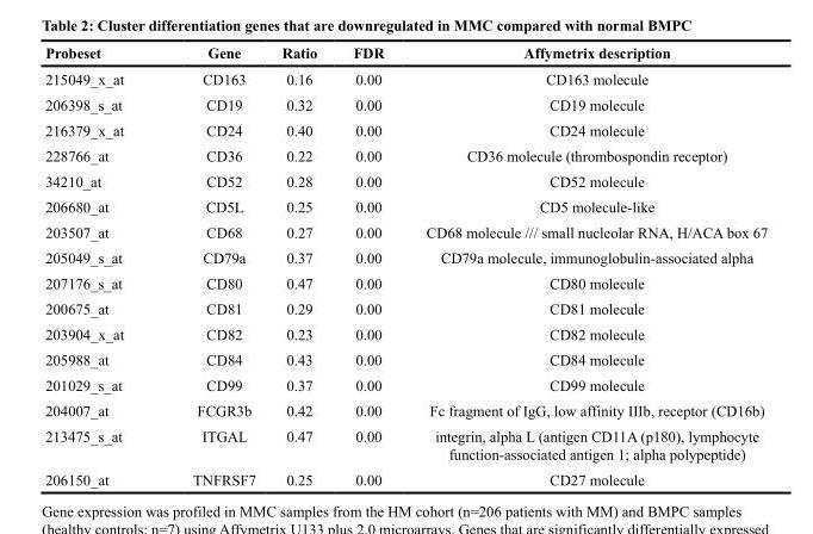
<table><thead><tr><td>Probeset</td><td>Gene</td><td>Ratio</td><td>FDR</td><td>Affymetrix description</td></tr></thead><tbody><tr><td>215049_x_at</td><td>CD163</td><td>0.16</td><td>0.00</td><td>CD163 molecule</td></tr><tr><td>206398_s_at</td><td>CD19</td><td>0.32</td><td>0.00</td><td>CD19 molecule</td></tr><tr><td>216379_x_at</td><td>CD24</td><td>0.40</td><td>0.00</td><td>CD24 molecule</td></tr><tr><td>228766_at</td><td>CD36</td><td>0.22</td><td>0.00</td><td>CD36 molecule (thrombospondin receptor)</td></tr><tr><td>34210_at</td><td>CD52</td><td>0.28</td><td>0.00</td><td>CD52 molecule</td></tr><tr><td>206680_at</td><td>CD5L</td><td>0.25</td><td>0.00</td><td>CD5 molecule-like</td></tr><tr><td>203507_at</td><td>CD68</td><td>0.27</td><td>0.00</td><td>CD68 molecule /// small nucleolar RNA, H/ACA box 67</td></tr><tr><td>205049_s_at</td><td>CD79a</td><td>0.37</td><td>0.00</td><td>CD79a molecule, immunoglobulin-associated alpha</td></tr><tr><td>207176_s_at</td><td>CD80</td><td>0.47</td><td>0.00</td><td>CD80 molecule</td></tr><tr><td>200675_at</td><td>CD81</td><td>0.29</td><td>0.00</td><td>CD81 molecule</td></tr><tr><td>203904_x_at</td><td>CD82</td><td>0.23</td><td>0.00</td><td>CD82 molecule</td></tr><tr><td>205988_at</td><td>CD84</td><td>0.43</td><td>0.00</td><td>CD84 molecule</td></tr><tr><td>201029_s_at</td><td>CD99</td><td>0.37</td><td>0.00</td><td>CD99 molecule</td></tr><tr><td>204007_at</td><td>FCGR3b</td><td>0.42</td><td>0.00</td><td>Fc fragment of IgG, low affinity IIIb, receptor (CD16b)</td></tr><tr><td>213475_s_at</td><td>ITGAL</td><td>0.47</td><td>0.00</td><td>integrin, alpha L (antigen CD11A (p180), lymphocyte function-associated antigen 1; alpha polypeptide)</td></tr><tr><td>206150_at</td><td>TNFRSF7</td><td>0.25</td><td>0.00</td><td>CD27 molecule</td></tr></tbody></table>